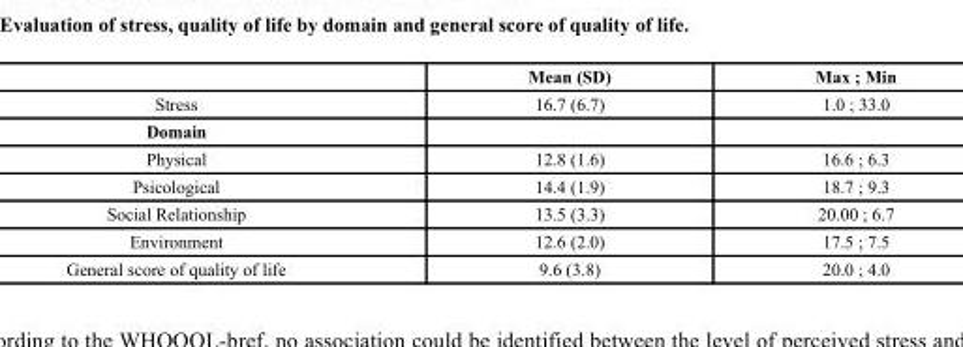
<table><thead><tr><td></td><td>Mean (SD)</td><td>Max ; Min</td></tr></thead><tbody><tr><td>Stress</td><td>16.7 (6.7)</td><td>1.0 ; 33.0</td></tr><tr><td colspan="3">Domain</td></tr><tr><td>Physical</td><td>12.8 (1.6)</td><td>16.6 ; 6.3</td></tr><tr><td>Psicological</td><td>14.4 (1.9)</td><td>18.7 ; 9.3</td></tr><tr><td>Social Relationship</td><td>13.5 (3.3)</td><td>20.00 ; 6.7</td></tr><tr><td>Environment</td><td>12.6 (2.0)</td><td>17.5 ; 7.5</td></tr><tr><td>General score of quality of life</td><td>9.6 (3.8)</td><td>20.0 ; 4.0</td></tr></tbody></table>